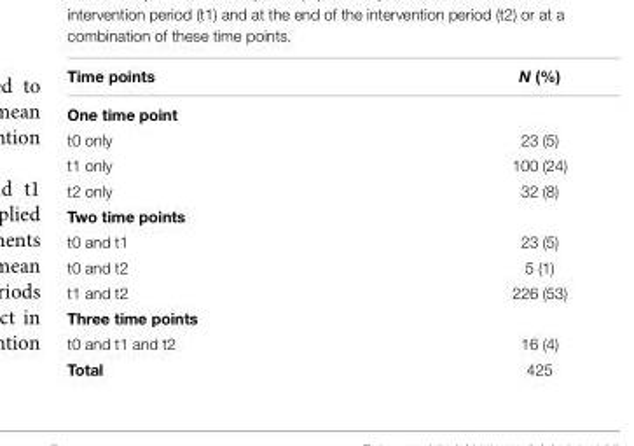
<table><thead><tr><td>Time points</td><td>N (%)</td></tr></thead><tbody><tr><td colspan="2">One time point</td></tr><tr><td>t0 only</td><td>23 (5)</td></tr><tr><td>t1 only</td><td>100 (24)</td></tr><tr><td>t2 only</td><td>32 (8)</td></tr><tr><td colspan="2">Two time points</td></tr><tr><td>t0 and t1</td><td>23 (5)</td></tr><tr><td>t0 and t2</td><td>5 (1)</td></tr><tr><td>t1 and t2</td><td>226 (53)</td></tr><tr><td colspan="2">Three time points</td></tr><tr><td>t0 and t1 and t2</td><td>16 (4)</td></tr><tr><td>Total</td><td>425</td></tr></tbody></table>